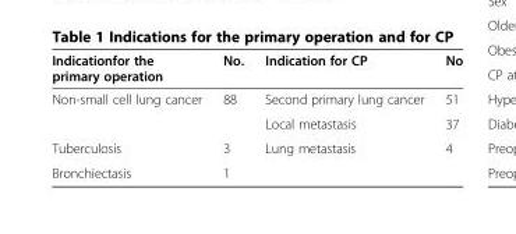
<table><thead><tr><td>Indicationfor the primary operation</td><td>No.</td><td>Indication for CP</td><td>No</td></tr></thead><tbody><tr><td rowspan="2">Non-small cell lung cancer</td><td>88</td><td>Second primary lung cancer</td><td>51</td></tr><tr><td></td><td>Local metastasis</td><td>37</td></tr><tr><td>Tuberculosis</td><td>3</td><td>Lung metastasis</td><td>4</td></tr><tr><td>Bronchiectasis</td><td>1</td><td></td><td></td></tr></tbody></table>